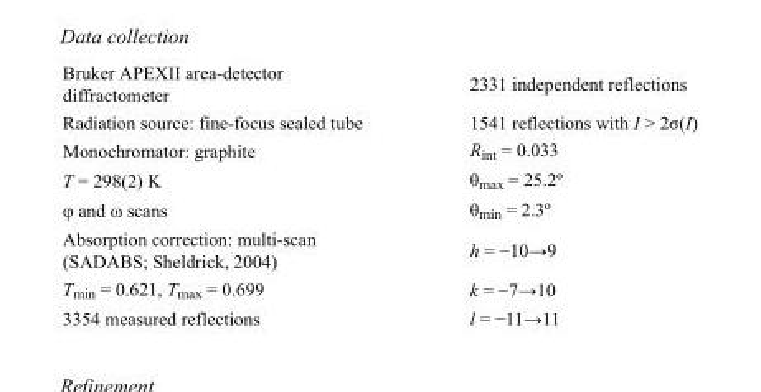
<table><tbody><tr><td>Bruker APEXII area-detector diffractometer</td><td>2331 independent reflections</td></tr><tr><td>Radiation source: fine-focus sealed tube</td><td>1541 reflections with I &gt; 2σ(I)</td></tr><tr><td>Monochromator: graphite</td><td>R<sub>int</sub> = 0.033</td></tr><tr><td>T = 298(2) K</td><td>θ<sub>max</sub> = 25.2º</td></tr><tr><td>φ and ω scans</td><td>θ<sub>min</sub> = 2.3º</td></tr><tr><td>Absorption correction: multi-scan (SADABS; Sheldrick, 2004)</td><td>h = −10→9</td></tr><tr><td>T<sub>min</sub> = 0.621, T<sub>max</sub> = 0.699</td><td>k = −7→10</td></tr><tr><td>3354 measured reflections</td><td>l = −11→11</td></tr></tbody></table>